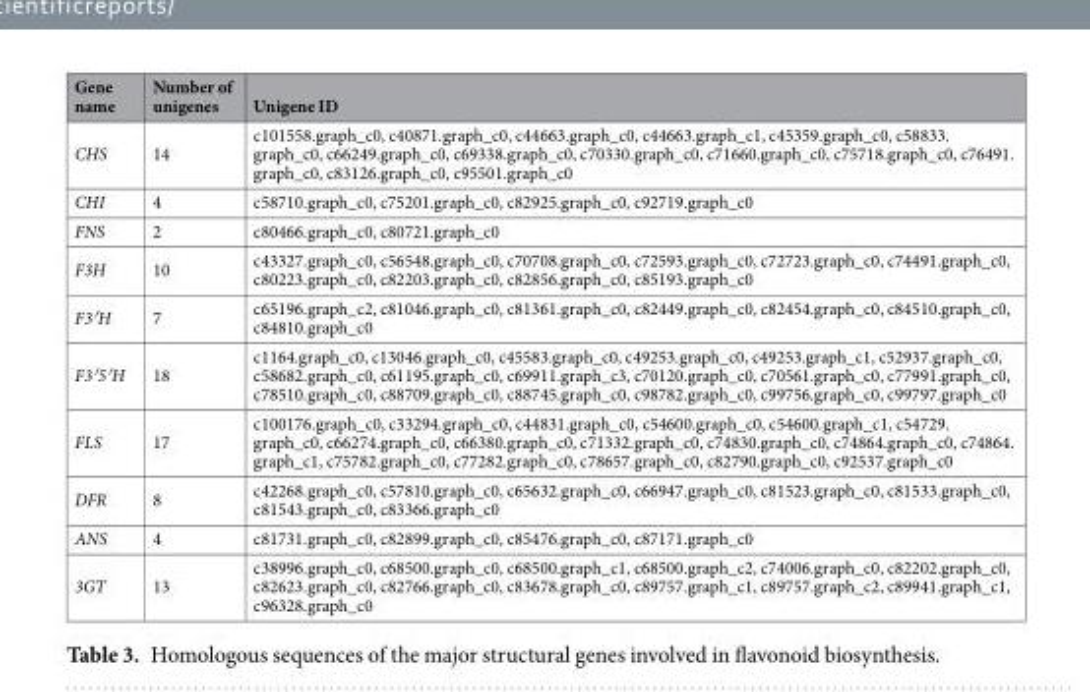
<table><thead><tr><td>Gene name</td><td>Number of unigenes</td><td>Unigene ID</td></tr></thead><tbody><tr><td>CHS</td><td>14</td><td>c101558.graph_c0, c40871.graph_c0, c44663.graph_c0, c44663.graph_c1, c45359.graph_c0, c58833. graph_c0, c66249.graph_c0, c69338.graph_c0, c70330.graph_c0, c71660.graph_c0, c75718.graph_c0, c76491. graph_c0, c83126.graph_c0, c95501.graph_c0</td></tr><tr><td>CHI</td><td>4</td><td>c58710.graph_c0, c75201.graph_c0, c82925.graph_c0, c92719.graph_c0</td></tr><tr><td>FNS</td><td>2</td><td>c80466.graph_c0, c80721.graph_c0</td></tr><tr><td>F3H</td><td>10</td><td>c43327.graph_c0, c56548.graph_c0, c70708.graph_c0, c72593.graph_c0, c72723.graph_c0, c74491.graph_c0, c80223.graph_c0, c82203.graph_c0, c82856.graph_c0, c85193.graph_c0</td></tr><tr><td>F3′H</td><td>7</td><td>c65196.graph_c2, c81046.graph_c0, c81361.graph_c0, c82449.graph_c0, c82454.graph_c0, c84510.graph_c0, c84810.graph_c0</td></tr><tr><td>F3′5′H</td><td>18</td><td>c1164.graph_c0, c13046.graph_c0, c45583.graph_c0, c49253.graph_c0, c49253.graph_c1, c52937.graph_c0, c58682.graph_c0, c61195.graph_c0, c69911.graph_c3, c70120.graph_c0, c70561.graph_c0, c77991.graph_c0, c78510.graph_c0, c88709.graph_c0, c88745.graph_c0, c98782.graph_c0, c99756.graph_c0, c99797.graph_c0</td></tr><tr><td>FLS</td><td>17</td><td>c100176.graph_c0, c33294.graph_c0, c44831.graph_c0, c54600.graph_c0, c54600.graph_c1, c54729. graph_c0, c66274.graph_c0, c66380.graph_c0, c71332.graph_c0, c74830.graph_c0, c74864.graph_c0, c74864. graph_c1, c75782.graph_c0, c77282.graph_c0, c78657.graph_c0, c82790.graph_c0, c92537.graph_c0</td></tr><tr><td>DFR</td><td>8</td><td>c42268.graph_c0, c57810.graph_c0, c65632.graph_c0, c66947.graph_c0, c81523.graph_c0, c81533.graph_c0, c81543.graph_c0, c83366.graph_c0</td></tr><tr><td>ANS</td><td>4</td><td>c81731.graph_c0, c82899.graph_c0, c85476.graph_c0, c87171.graph_c0</td></tr><tr><td>3GT</td><td>13</td><td>c38996.graph_c0, c68500.graph_c0, c68500.graph_c1, c68500.graph_c2, c74006.graph_c0, c82202.graph_c0, c82623.graph_c0, c82766.graph_c0, c83678.graph_c0, c89757.graph_c1, c89757.graph_c2, c89941.graph_c1, c96328.graph_c0</td></tr></tbody></table>